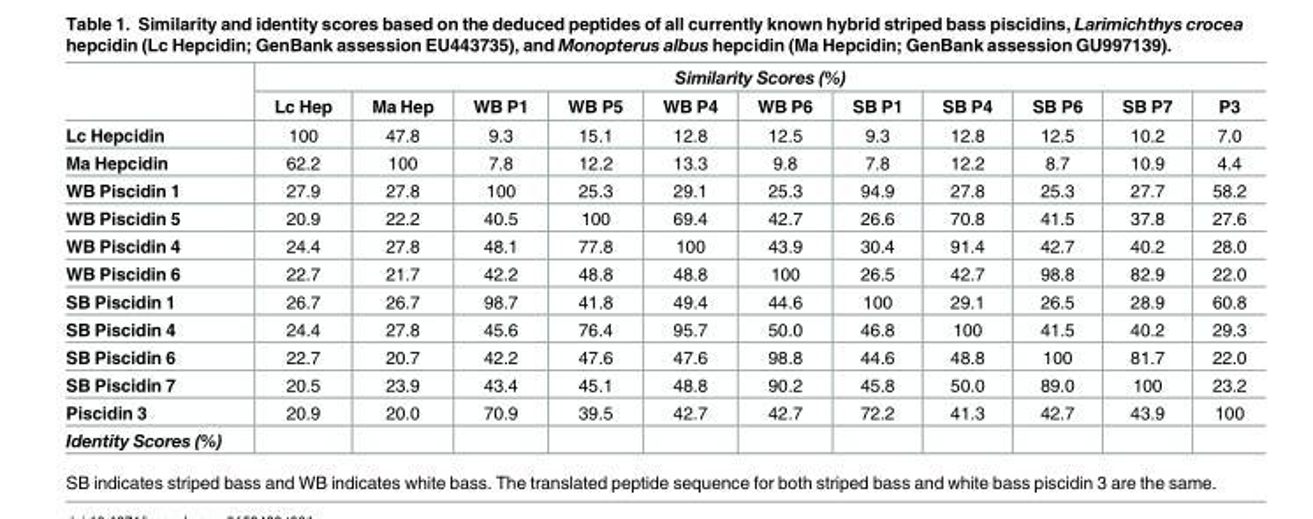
<table><thead><tr><td rowspan="2"></td><td colspan="11">Similarity Scores (%)</td></tr><tr><td>Lc Hep</td><td>Ma Hep</td><td>WB P1</td><td>WB P5</td><td>WB P4</td><td>WB P6</td><td>SB P1</td><td>SB P4</td><td>SB P6</td><td>SB P7</td><td>P3</td></tr></thead><tbody><tr><td>Lc Hepcidin</td><td>100</td><td>47.8</td><td>9.3</td><td>15.1</td><td>12.8</td><td>12.5</td><td>9.3</td><td>12.8</td><td>12.5</td><td>10.2</td><td>7.0</td></tr><tr><td>Ma Hepcidin</td><td>62.2</td><td>100</td><td>7.8</td><td>12.2</td><td>13.3</td><td>9.8</td><td>7.8</td><td>12.2</td><td>8.7</td><td>10.9</td><td>4.4</td></tr><tr><td>WB Piscidin 1</td><td>27.9</td><td>27.8</td><td>100</td><td>25.3</td><td>29.1</td><td>25.3</td><td>94.9</td><td>27.8</td><td>25.3</td><td>27.7</td><td>58.2</td></tr><tr><td>WB Piscidin 5</td><td>20.9</td><td>22.2</td><td>40.5</td><td>100</td><td>69.4</td><td>42.7</td><td>26.6</td><td>70.8</td><td>41.5</td><td>37.8</td><td>27.6</td></tr><tr><td>WB Piscidin 4</td><td>24.4</td><td>27.8</td><td>48.1</td><td>77.8</td><td>100</td><td>43.9</td><td>30.4</td><td>91.4</td><td>42.7</td><td>40.2</td><td>28.0</td></tr><tr><td>WB Piscidin 6</td><td>22.7</td><td>21.7</td><td>42.2</td><td>48.8</td><td>48.8</td><td>100</td><td>26.5</td><td>42.7</td><td>98.8</td><td>82.9</td><td>22.0</td></tr><tr><td>SB Piscidin 1</td><td>26.7</td><td>26.7</td><td>98.7</td><td>41.8</td><td>49.4</td><td>44.6</td><td>100</td><td>29.1</td><td>26.5</td><td>28.9</td><td>60.8</td></tr><tr><td>SB Piscidin 4</td><td>24.4</td><td>27.8</td><td>45.6</td><td>76.4</td><td>95.7</td><td>50.0</td><td>46.8</td><td>100</td><td>41.5</td><td>40.2</td><td>29.3</td></tr><tr><td>SB Piscidin 6</td><td>22.7</td><td>20.7</td><td>42.2</td><td>47.6</td><td>47.6</td><td>98.8</td><td>44.6</td><td>48.8</td><td>100</td><td>81.7</td><td>22.0</td></tr><tr><td>SB Piscidin 7</td><td>20.5</td><td>23.9</td><td>43.4</td><td>45.1</td><td>48.8</td><td>90.2</td><td>45.8</td><td>50.0</td><td>89.0</td><td>100</td><td>23.2</td></tr><tr><td>Piscidin 3</td><td>20.9</td><td>20.0</td><td>70.9</td><td>39.5</td><td>42.7</td><td>42.7</td><td>72.2</td><td>41.3</td><td>42.7</td><td>43.9</td><td>100</td></tr><tr><td>Identity Scores (%)</td><td></td><td></td><td></td><td></td><td></td><td></td><td></td><td></td><td></td><td></td><td></td></tr></tbody></table>